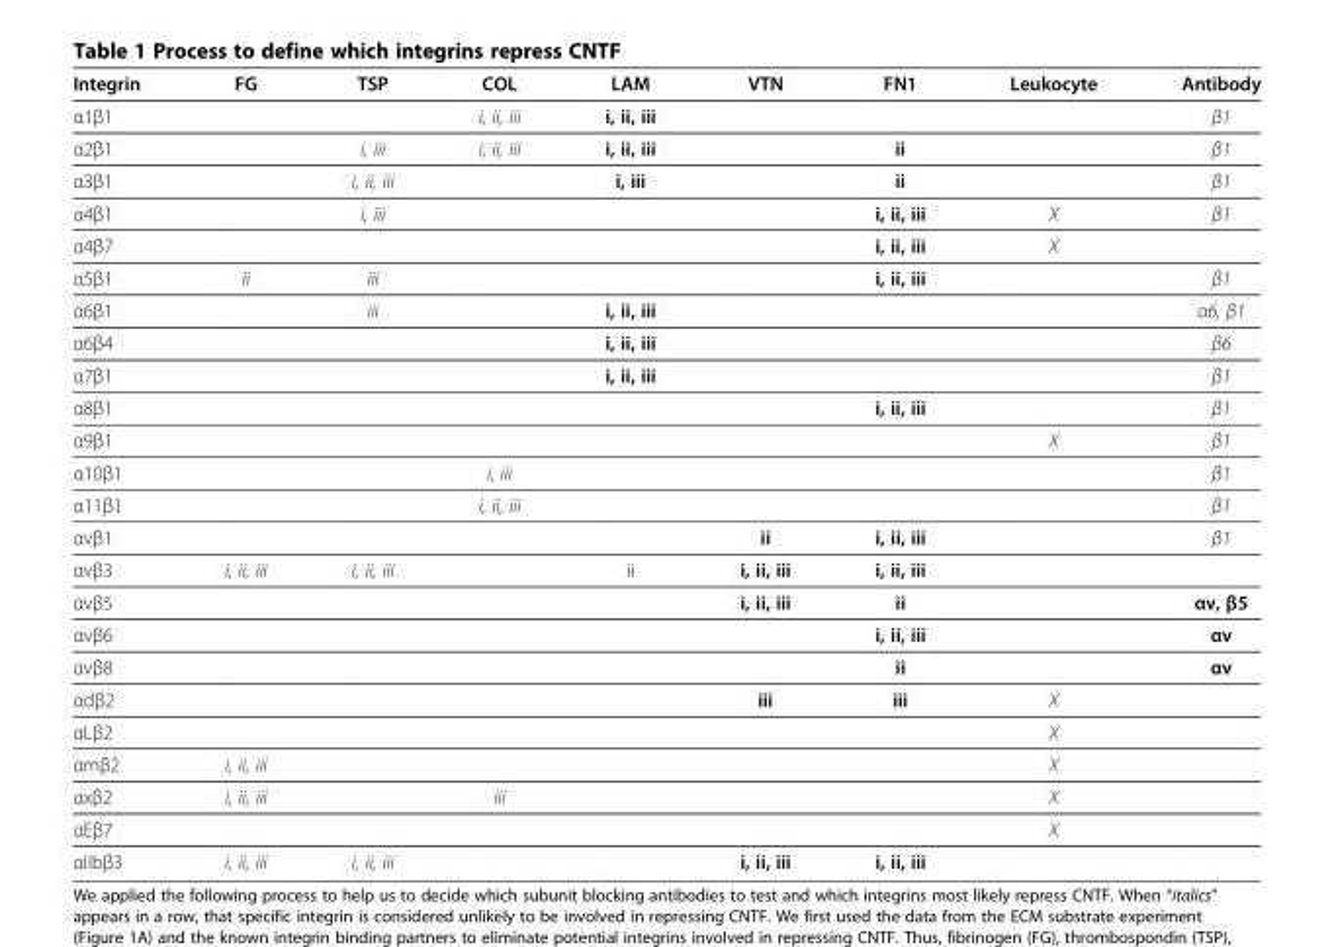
<table><thead><tr><td>Integrin</td><td>FG</td><td>TSP</td><td>COL</td><td>LAM</td><td>VTN</td><td>FN1</td><td>Leukocyte</td><td>Antibody</td></tr></thead><tbody><tr><td>α1β1</td><td></td><td></td><td>i, ii, iii</td><td>i, ii, iii</td><td></td><td></td><td></td><td>β1</td></tr><tr><td>α2β1</td><td></td><td>i, iii</td><td>i, ii, iii</td><td>i, ii, iii</td><td></td><td>ii</td><td></td><td>β1</td></tr><tr><td>α3β1</td><td></td><td>i, ii, iii</td><td></td><td>i, iii</td><td></td><td>ii</td><td></td><td>β1</td></tr><tr><td>α4β1</td><td></td><td>i, iii</td><td></td><td></td><td></td><td>i, ii, iii</td><td>X</td><td>β1</td></tr><tr><td>α4β7</td><td></td><td></td><td></td><td></td><td></td><td>i, ii, iii</td><td>X</td><td></td></tr><tr><td>α5β1</td><td>ii</td><td>iii</td><td></td><td></td><td></td><td>i, ii, iii</td><td></td><td>β1</td></tr><tr><td>α6β1</td><td></td><td>iii</td><td></td><td>i, ii, iii</td><td></td><td></td><td></td><td>α6, β1</td></tr><tr><td>α6β4</td><td></td><td></td><td></td><td>i, ii, iii</td><td></td><td></td><td></td><td>β6</td></tr><tr><td>α7β1</td><td></td><td></td><td></td><td>i, ii, iii</td><td></td><td></td><td></td><td>β1</td></tr><tr><td>α8β1</td><td></td><td></td><td></td><td></td><td></td><td>i, ii, iii</td><td></td><td>β1</td></tr><tr><td>α9β1</td><td></td><td></td><td></td><td></td><td></td><td></td><td>X</td><td>β1</td></tr><tr><td>α10β1</td><td></td><td></td><td>i, iii</td><td></td><td></td><td></td><td></td><td>β1</td></tr><tr><td>α11β1</td><td></td><td></td><td>i, ii, iii</td><td></td><td></td><td></td><td></td><td>β1</td></tr><tr><td>αvβ1</td><td></td><td></td><td></td><td></td><td>ii</td><td>i, ii, iii</td><td></td><td>β1</td></tr><tr><td>αvβ3</td><td>i, ii, iii</td><td>i, ii, iii</td><td></td><td>ii</td><td>i, ii, iii</td><td>i, ii, iii</td><td></td><td></td></tr><tr><td>αvβ5</td><td></td><td></td><td></td><td></td><td>i, ii, iii</td><td>ii</td><td></td><td>αv, β5</td></tr><tr><td>αvβ6</td><td></td><td></td><td></td><td></td><td></td><td>i, ii, iii</td><td></td><td>αv</td></tr><tr><td>αvβ8</td><td></td><td></td><td></td><td></td><td></td><td>ii</td><td></td><td>αv</td></tr><tr><td>αdβ2</td><td></td><td></td><td></td><td></td><td>iii</td><td>iii</td><td>X</td><td></td></tr><tr><td>αLβ2</td><td></td><td></td><td></td><td></td><td></td><td></td><td>X</td><td></td></tr><tr><td>αmβ2</td><td>i, ii, iii</td><td></td><td></td><td></td><td></td><td></td><td>X</td><td></td></tr><tr><td>αxβ2</td><td>i, ii, iii</td><td></td><td>iii</td><td></td><td></td><td></td><td>X</td><td></td></tr><tr><td>αEβ7</td><td></td><td></td><td></td><td></td><td></td><td></td><td>X</td><td></td></tr><tr><td>αIIbβ3</td><td>i, ii, iii</td><td>i, ii, iii</td><td></td><td></td><td>i, ii, iii</td><td>i, ii, iii</td><td></td><td></td></tr></tbody></table>